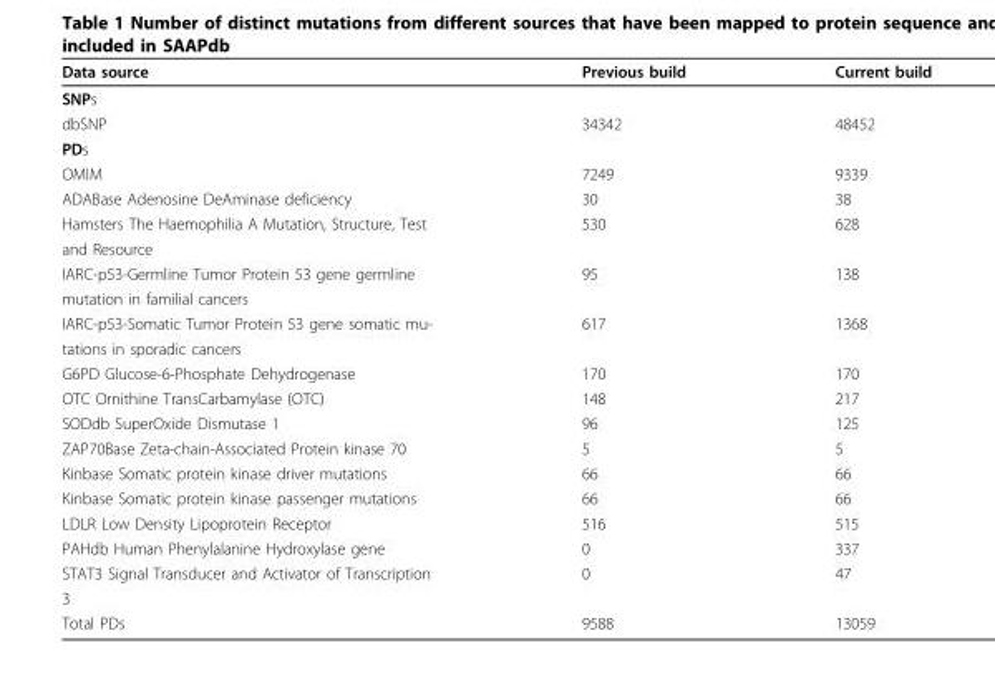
<table><tbody><tr><td>Data source</td><td>Previous build</td><td>Current build</td></tr><tr><td colspan="3">SNPs</td></tr><tr><td>dbSNP</td><td>34342</td><td>48452</td></tr><tr><td colspan="3">PDs</td></tr><tr><td>OMIM</td><td>7249</td><td>9339</td></tr><tr><td>ADABase Adenosine DeAminase deficiency</td><td>30</td><td>38</td></tr><tr><td>Hamsters The Haemophilia A Mutation, Structure, Test</td><td>530</td><td>628</td></tr><tr><td colspan="3">and Resource</td></tr><tr><td>IARC-p53-Germline Tumor Protein 53 gene germline</td><td>95</td><td>138</td></tr><tr><td colspan="3">mutation in familial cancers</td></tr><tr><td>IARC-p53-Somatic Tumor Protein 53 gene somatic mu-</td><td>617</td><td>1368</td></tr><tr><td colspan="3">tations in sporadic cancers</td></tr><tr><td>G6PD Glucose-6-Phosphate Dehydrogenase</td><td>170</td><td>170</td></tr><tr><td>OTC Ornithine TransCarbamylase (OTC)</td><td>148</td><td>217</td></tr><tr><td>SODdb SuperOxide Dismutase 1</td><td>96</td><td>125</td></tr><tr><td>ZAP70Base Zeta-chain-Associated Protein kinase 70</td><td>5</td><td>5</td></tr><tr><td>Kinbase Somatic protein kinase driver mutations</td><td>66</td><td>66</td></tr><tr><td>Kinbase Somatic protein kinase passenger mutations</td><td>66</td><td>66</td></tr><tr><td>LDLR Low Density Lipoprotein Receptor</td><td>516</td><td>515</td></tr><tr><td>PAHdb Human Phenylalanine Hydroxylase gene</td><td>0</td><td>337</td></tr><tr><td>STAT3 Signal Transducer and Activator of Transcription</td><td>0</td><td>47</td></tr><tr><td colspan="3">3</td></tr><tr><td>Total PDs</td><td>9588</td><td>13059</td></tr></tbody></table>